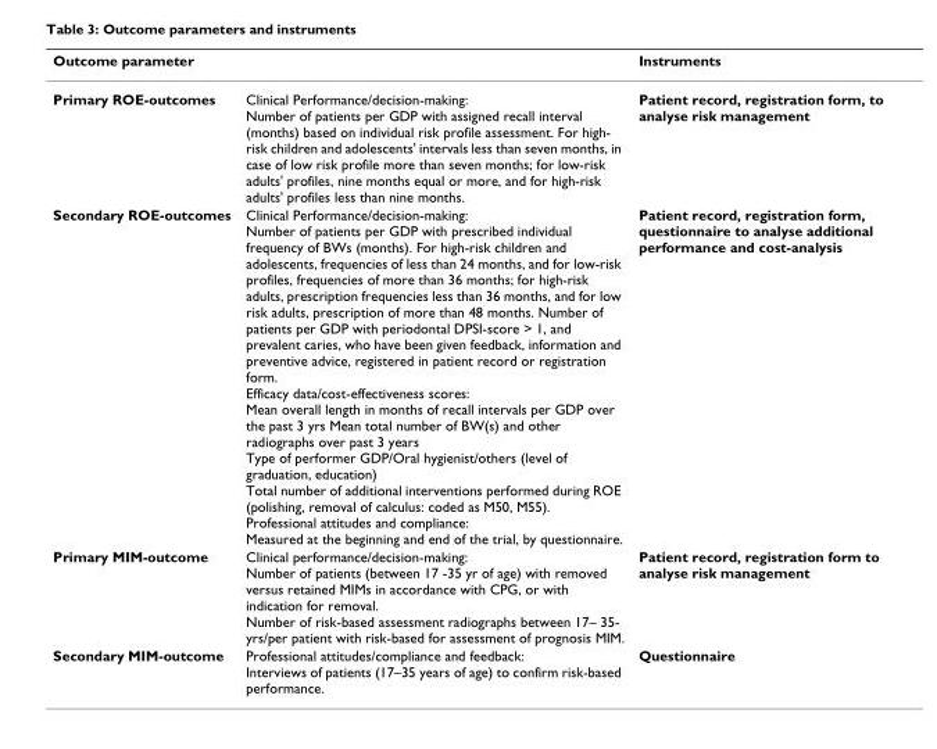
<table><thead><tr><td>Outcome parameter</td><td></td><td>Instruments</td></tr></thead><tbody><tr><td>Primary ROE-outcomes</td><td>Clinical Performance/decision-making: Number of patients per GDP with assigned recall interval (months) based on individual risk profile assessment. For high- risk children and adolescents&#x27; intervals less than seven months, in case of low risk profile more than seven months; for low-risk adults&#x27; profiles, nine months equal or more, and for high-risk adults&#x27; profiles less than nine months.</td><td>Patient record, registration form, to analyse risk management</td></tr><tr><td>Secondary ROE-outcomes</td><td>Clinical Performance/decision-making: Number of patients per GDP with prescribed individual frequency of BWs (months). For high-risk children and adolescents, frequencies of less than 24 months, and for low-risk profiles, frequencies of more than 36 months; for high-risk adults, prescription frequencies less than 36 months, and for low risk adults, prescription of more than 48 months. Number of patients per GDP with periodontal DPSI-score &gt; 1, and prevalent caries, who have been given feedback, information and preventive advice, registered in patient record or registration form. Efficacy data/cost-effectiveness scores: Mean overall length in months of recall intervals per GDP over the past 3 yrs Mean total number of BW(s) and other radiographs over past 3 years Type of performer GDP/Oral hygienist/others (level of graduation, education) Total number of additional interventions performed during ROE (polishing, removal of calculus: coded as M50, M55). Professional attitudes and compliance: Measured at the beginning and end of the trial, by questionnaire.</td><td>Patient record, registration form, questionnaire to analyse additional performance and cost-analysis</td></tr><tr><td>Primary MIM-outcome</td><td>Clinical performance/decision-making: Number of patients (between 17 -35 yr of age) with removed versus retained MIMs in accordance with CPG, or with indication for removal. Number of risk-based assessment radiographs between 17– 35- yrs/per patient with risk-based for assessment of prognosis MIM.</td><td>Patient record, registration form to analyse risk management</td></tr><tr><td>Secondary MIM-outcome</td><td>Professional attitudes/compliance and feedback: Interviews of patients (17–35 years of age) to confirm risk-based performance.</td><td>Questionnaire</td></tr></tbody></table>